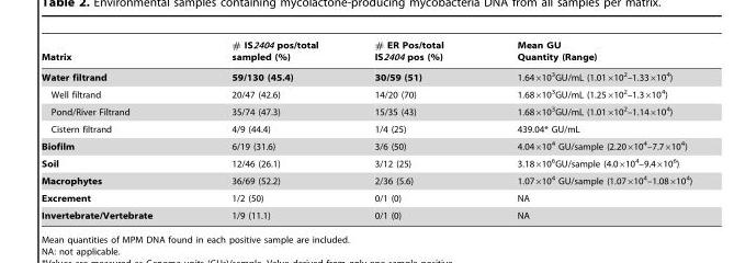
<table><thead><tr><td>Matrix</td><td># IS2404 pos/total sampled (%)</td><td># ER Pos/total IS2404 pos (%)</td><td>Mean GU Quantity (Range)</td></tr></thead><tbody><tr><td>Water filtrand</td><td>59/130 (45.4)</td><td>30/59 (51)</td><td>1.64×10<sup>3</sup>GU/mL (1.01×10<sup>2</sup>–1.33×10<sup>4</sup>)</td></tr><tr><td>Well filtrand</td><td>20/47 (42.6)</td><td>14/20 (70)</td><td>1.68×10<sup>3</sup>GU/mL (1.25×10<sup>2</sup>–1.3×10<sup>4</sup>)</td></tr><tr><td>Pond/River Filtrand</td><td>35/74 (47.3)</td><td>15/35 (43)</td><td>1.68×10<sup>3</sup>GU/mL (1.01×10<sup>2</sup>–1.14×10<sup>4</sup>)</td></tr><tr><td>Cistern filtrand</td><td>4/9 (44.4)</td><td>1/4 (25)</td><td>439.04* GU/mL</td></tr><tr><td>Biofilm</td><td>6/19 (31.6)</td><td>3/6 (50)</td><td>4.04×10<sup>4</sup> GU/sample (2.20×10<sup>4</sup>–7.7×10<sup>4</sup>)</td></tr><tr><td>Soil</td><td>12/46 (26.1)</td><td>3/12 (25)</td><td>3.18×10<sup>6</sup>GU/sample (4.0×10<sup>4</sup>–9.4×10<sup>6</sup>)</td></tr><tr><td>Macrophytes</td><td>36/69 (52.2)</td><td>2/36 (5.6)</td><td>1.07×10<sup>4</sup> GU/sample (1.07×10<sup>4</sup>–1.08×10<sup>4</sup>)</td></tr><tr><td>Excrement</td><td>1/2 (50)</td><td>0/1 (0)</td><td>NA</td></tr><tr><td>Invertebrate/Vertebrate</td><td>1/9 (11.1)</td><td>0/1 (0)</td><td>NA</td></tr></tbody></table>